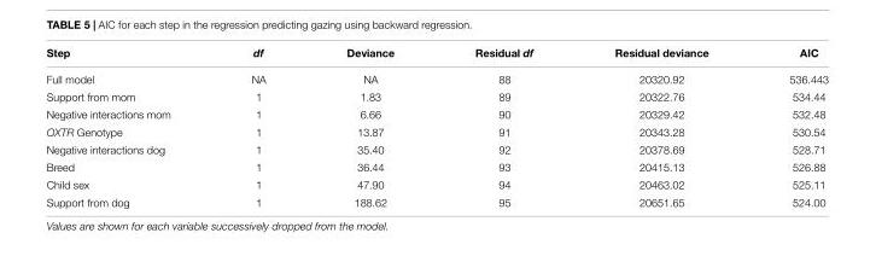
<table><thead><tr><td>Step</td><td>df</td><td>Deviance</td><td>Residual df</td><td>Residual deviance</td><td>AIC</td></tr></thead><tbody><tr><td>Full model</td><td>NA</td><td>NA</td><td>88</td><td>20320.92</td><td>536.443</td></tr><tr><td>Support from mom</td><td>1</td><td>1.83</td><td>89</td><td>20322.76</td><td>534.44</td></tr><tr><td>Negative interactions mom</td><td>1</td><td>6.66</td><td>90</td><td>20329.42</td><td>532.48</td></tr><tr><td>OXTR Genotype</td><td>1</td><td>13.87</td><td>91</td><td>20343.28</td><td>530.54</td></tr><tr><td>Negative interactions dog</td><td>1</td><td>35.40</td><td>92</td><td>20378.69</td><td>528.71</td></tr><tr><td>Breed</td><td>1</td><td>36.44</td><td>93</td><td>20415.13</td><td>526.88</td></tr><tr><td>Child sex</td><td>1</td><td>47.90</td><td>94</td><td>20463.02</td><td>525.11</td></tr><tr><td>Support from dog</td><td>1</td><td>188.62</td><td>95</td><td>20651.65</td><td>524.00</td></tr></tbody></table>